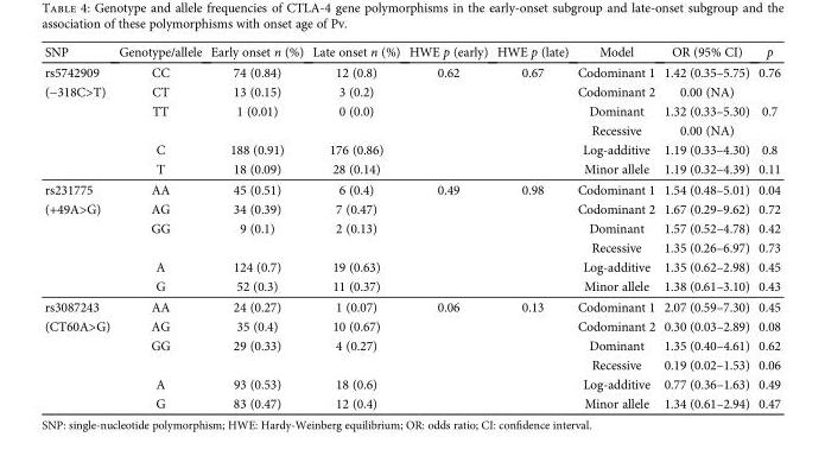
<table><thead><tr><td>SNP</td><td>Genotype/allele</td><td>Early onset n (%)</td><td>Late onset n (%)</td><td>HWE p (early)</td><td>HWE p (late)</td><td>Model</td><td>OR (95% CI)</td><td>p</td></tr></thead><tbody><tr><td>rs5742909</td><td>CC</td><td>74 (0.84)</td><td>12 (0.8)</td><td>0.62</td><td>0.67</td><td>Codominant 1</td><td>1.42 (0.35–5.75)</td><td>0.76</td></tr><tr><td rowspan="5">(−318C&gt;T)</td><td>CT</td><td>13 (0.15)</td><td>3 (0.2)</td><td></td><td></td><td>Codominant 2</td><td>0.00 (NA)</td><td></td></tr><tr><td>TT</td><td>1 (0.01)</td><td>0 (0.0)</td><td></td><td></td><td>Dominant</td><td>1.32 (0.33–5.30)</td><td>0.7</td></tr><tr><td></td><td></td><td></td><td></td><td></td><td>Recessive</td><td>0.00 (NA)</td><td></td></tr><tr><td>C</td><td>188 (0.91)</td><td>176 (0.86)</td><td></td><td></td><td>Log-additive</td><td>1.19 (0.33–4.30)</td><td>0.8</td></tr><tr><td>T</td><td>18 (0.09)</td><td>28 (0.14)</td><td></td><td></td><td>Minor allele</td><td>1.19 (0.32–4.39)</td><td>0.11</td></tr><tr><td>rs231775</td><td>AA</td><td>45 (0.51)</td><td>6 (0.4)</td><td>0.49</td><td>0.98</td><td>Codominant 1</td><td>1.54 (0.48–5.01)</td><td>0.04</td></tr><tr><td rowspan="5">(+49A&gt;G)</td><td>AG</td><td>34 (0.39)</td><td>7 (0.47)</td><td></td><td></td><td>Codominant 2</td><td>1.67 (0.29–9.62)</td><td>0.72</td></tr><tr><td>GG</td><td>9 (0.1)</td><td>2 (0.13)</td><td></td><td></td><td>Dominant</td><td>1.57 (0.52–4.78)</td><td>0.42</td></tr><tr><td></td><td></td><td></td><td></td><td></td><td>Recessive</td><td>1.35 (0.26–6.97)</td><td>0.73</td></tr><tr><td>A</td><td>124 (0.7)</td><td>19 (0.63)</td><td></td><td></td><td>Log-additive</td><td>1.35 (0.62–2.98)</td><td>0.45</td></tr><tr><td>G</td><td>52 (0.3)</td><td>11 (0.37)</td><td></td><td></td><td>Minor allele</td><td>1.38 (0.61–3.10)</td><td>0.43</td></tr><tr><td>rs3087243</td><td>AA</td><td>24 (0.27)</td><td>1 (0.07)</td><td>0.06</td><td>0.13</td><td>Codominant 1</td><td>2.07 (0.59–7.30)</td><td>0.45</td></tr><tr><td rowspan="5">(CT60A&gt;G)</td><td>AG</td><td>35 (0.4)</td><td>10 (0.67)</td><td></td><td></td><td>Codominant 2</td><td>0.30 (0.03–2.89)</td><td>0.08</td></tr><tr><td>GG</td><td>29 (0.33)</td><td>4 (0.27)</td><td></td><td></td><td>Dominant</td><td>1.35 (0.40–4.61)</td><td>0.62</td></tr><tr><td></td><td></td><td></td><td></td><td></td><td>Recessive</td><td>0.19 (0.02–1.53)</td><td>0.06</td></tr><tr><td>A</td><td>93 (0.53)</td><td>18 (0.6)</td><td></td><td></td><td>Log-additive</td><td>0.77 (0.36–1.63)</td><td>0.49</td></tr><tr><td>G</td><td>83 (0.47)</td><td>12 (0.4)</td><td></td><td></td><td>Minor allele</td><td>1.34 (0.61–2.94)</td><td>0.47</td></tr></tbody></table>